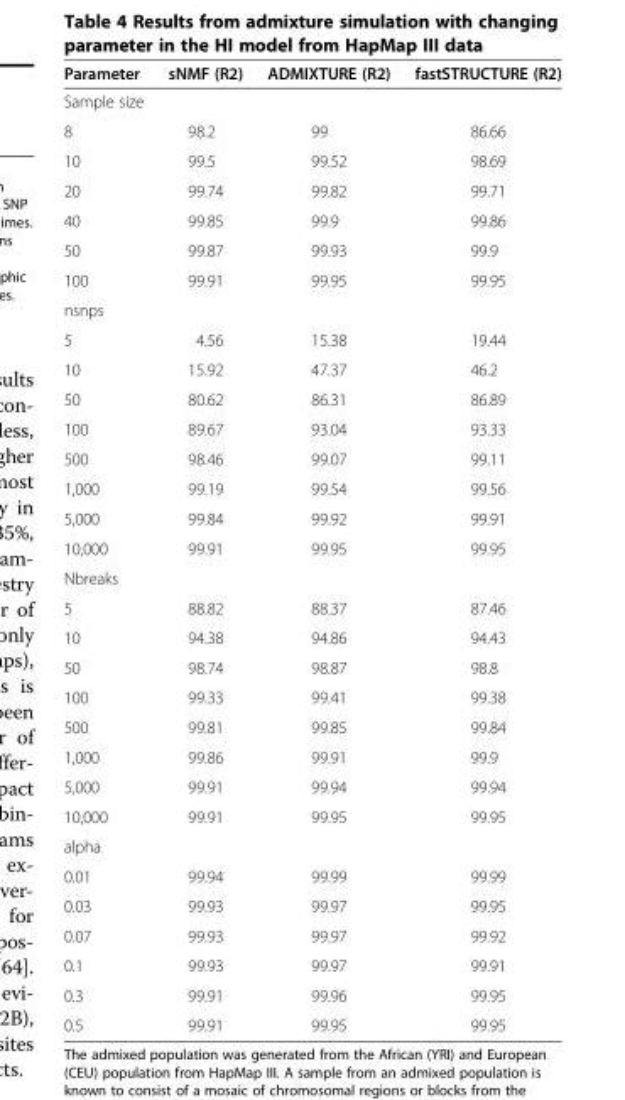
<table><thead><tr><td>Parameter</td><td>sNMF (R2)</td><td>ADMIXTURE (R2)</td><td>fastSTRUCTURE (R2)</td></tr></thead><tbody><tr><td colspan="4">Sample size</td></tr><tr><td>8</td><td>98.2</td><td>99</td><td>86.66</td></tr><tr><td>10</td><td>99.5</td><td>99.52</td><td>98.69</td></tr><tr><td>20</td><td>99.74</td><td>99.82</td><td>99.71</td></tr><tr><td>40</td><td>99.85</td><td>99.9</td><td>99.86</td></tr><tr><td>50</td><td>99.87</td><td>99.93</td><td>99.9</td></tr><tr><td>100</td><td>99.91</td><td>99.95</td><td>99.95</td></tr><tr><td colspan="4">nsnps</td></tr><tr><td>5</td><td>4.56</td><td>15.38</td><td>19.44</td></tr><tr><td>10</td><td>15.92</td><td>47.37</td><td>46.2</td></tr><tr><td>50</td><td>80.62</td><td>86.31</td><td>86.89</td></tr><tr><td>100</td><td>89.67</td><td>93.04</td><td>93.33</td></tr><tr><td>500</td><td>98.46</td><td>99.07</td><td>99.11</td></tr><tr><td>1,000</td><td>99.19</td><td>99.54</td><td>99.56</td></tr><tr><td>5,000</td><td>99.84</td><td>99.92</td><td>99.91</td></tr><tr><td>10,000</td><td>99.91</td><td>99.95</td><td>99.95</td></tr><tr><td colspan="4">Nbreaks</td></tr><tr><td>5</td><td>88.82</td><td>88.37</td><td>87.46</td></tr><tr><td>10</td><td>94.38</td><td>94.86</td><td>94.43</td></tr><tr><td>50</td><td>98.74</td><td>98.87</td><td>98.8</td></tr><tr><td>100</td><td>99.33</td><td>99.41</td><td>99.38</td></tr><tr><td>500</td><td>99.81</td><td>99.85</td><td>99.84</td></tr><tr><td>1,000</td><td>99.86</td><td>99.91</td><td>99.9</td></tr><tr><td>5,000</td><td>99.91</td><td>99.94</td><td>99.94</td></tr><tr><td>10,000</td><td>99.91</td><td>99.95</td><td>99.95</td></tr><tr><td colspan="4">alpha</td></tr><tr><td>0.01</td><td>99.94</td><td>99.99</td><td>99.99</td></tr><tr><td>0.03</td><td>99.93</td><td>99.97</td><td>99.95</td></tr><tr><td>0.07</td><td>99.93</td><td>99.97</td><td>99.92</td></tr><tr><td>0.1</td><td>99.93</td><td>99.97</td><td>99.91</td></tr><tr><td>0.3</td><td>99.91</td><td>99.96</td><td>99.95</td></tr><tr><td>0.5</td><td>99.91</td><td>99.95</td><td>99.95</td></tr></tbody></table>